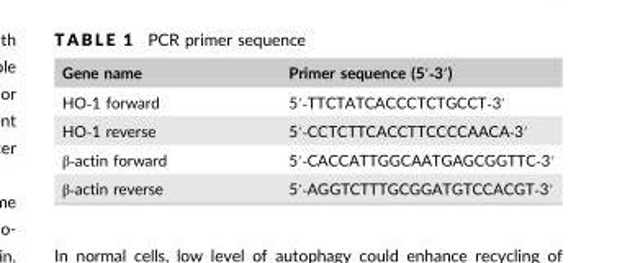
<table><thead><tr><td>Gene name</td><td>Primer sequence (5′‐3′)</td></tr></thead><tbody><tr><td>HO‐1 forward</td><td>5′‐TTCTATCACCCTCTGCCT‐3′</td></tr><tr><td>HO‐1 reverse</td><td>5′‐CCTCTTCACCTTCCCCAACA‐3′</td></tr><tr><td>β‐actin forward</td><td>5′‐CACCATTGGCAATGAGCGGTTC‐3′</td></tr><tr><td>β‐actin reverse</td><td>5′‐AGGTCTTTGCGGATGTCCACGT‐3′</td></tr></tbody></table>